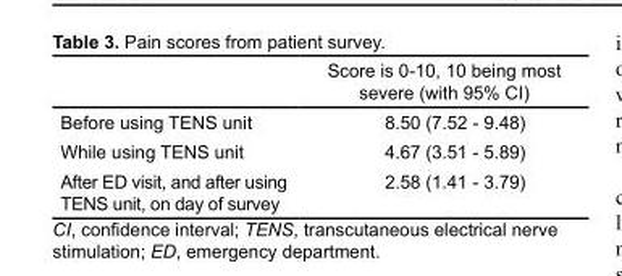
<table><thead><tr><td></td><td>Score is 0-10, 10 being most severe (with 95% CI)</td></tr></thead><tbody><tr><td>Before using TENS unit</td><td>8.50 (7.52 - 9.48)</td></tr><tr><td>While using TENS unit</td><td>4.67 (3.51 - 5.89)</td></tr><tr><td>After ED visit, and after using TENS unit, on day of survey</td><td>2.58 (1.41 - 3.79)</td></tr></tbody></table>